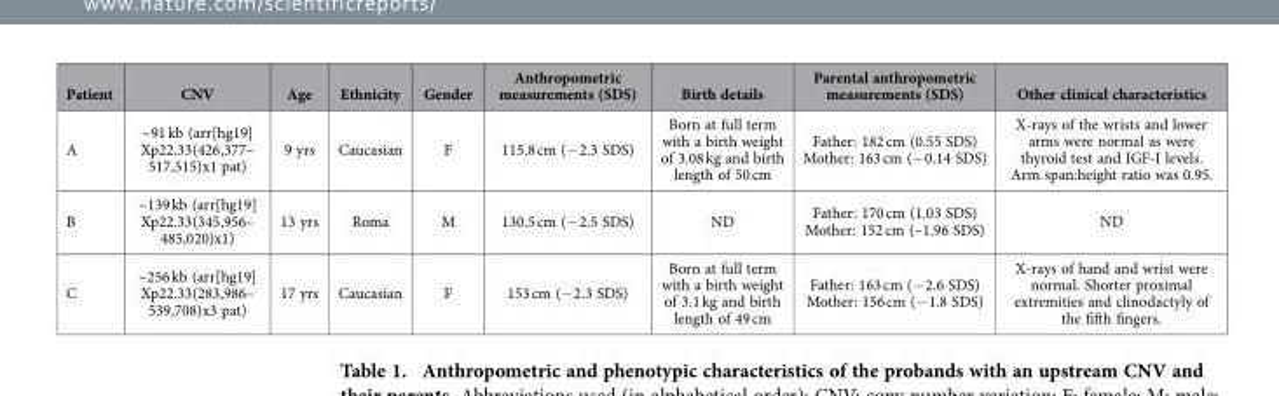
<table><thead><tr><td>Patient</td><td>CNV</td><td>Age</td><td>Ethnicity</td><td>Gender</td><td>Anthropometric measurements (SDS)</td><td>Birth details</td><td>Parental anthropometric measurements (SDS)</td><td>Other clinical characteristics</td></tr></thead><tbody><tr><td>A</td><td>~91 kb (arr[hg19] Xp22.33(426,377– 517,515)x1 pat)</td><td>9 yrs</td><td>Caucasian</td><td>F</td><td>115.8 cm (− 2.3 SDS)</td><td>Born at full term with a birth weight of 3.08 kg and birth length of 50 cm</td><td>Father: 182 cm (0.55 SDS) Mother: 163 cm (− 0.14 SDS)</td><td>X-rays of the wrists and lower arms were normal as were thyroid test and IGF-I levels. Arm span:height ratio was 0.95.</td></tr><tr><td>B</td><td>~139 kb (arr[hg19] Xp22.33(345,956– 485,020)x1)</td><td>13 yrs</td><td>Roma</td><td>M</td><td>130.5 cm (− 2.5 SDS)</td><td>ND</td><td>Father: 170 cm (1.03 SDS) Mother: 152 cm (–1.96 SDS)</td><td>ND</td></tr><tr><td>C</td><td>~256 kb (arr[hg19] Xp22.33(283,986– 539,708)x3 pat)</td><td>17 yrs</td><td>Caucasian</td><td>F</td><td>153 cm (− 2.3 SDS)</td><td>Born at full term with a birth weight of 3.1 kg and birth length of 49 cm</td><td>Father: 163 cm (− 2.6 SDS) Mother: 156 cm (− 1.8 SDS)</td><td>X-rays of hand and wrist were normal. Shorter proximal extremities and clinodactyly of the fifth fingers.</td></tr></tbody></table>